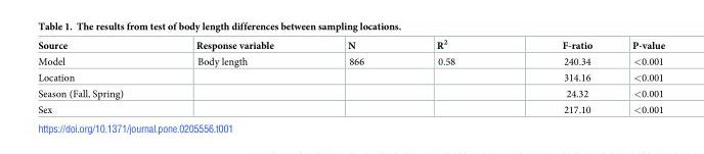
<table><thead><tr><td>Source</td><td>Response variable</td><td>N</td><td>R<sup>2</sup></td><td>F-ratio</td><td>P-value</td></tr></thead><tbody><tr><td>Model</td><td>Body length</td><td>866</td><td>0.58</td><td>240.34</td><td>&lt;0.001</td></tr><tr><td>Location</td><td></td><td></td><td></td><td>314.16</td><td>&lt;0.001</td></tr><tr><td>Season (Fall, Spring)</td><td></td><td></td><td></td><td>24.32</td><td>&lt;0.001</td></tr><tr><td>Sex</td><td></td><td></td><td></td><td>217.10</td><td>&lt;0.001</td></tr></tbody></table>